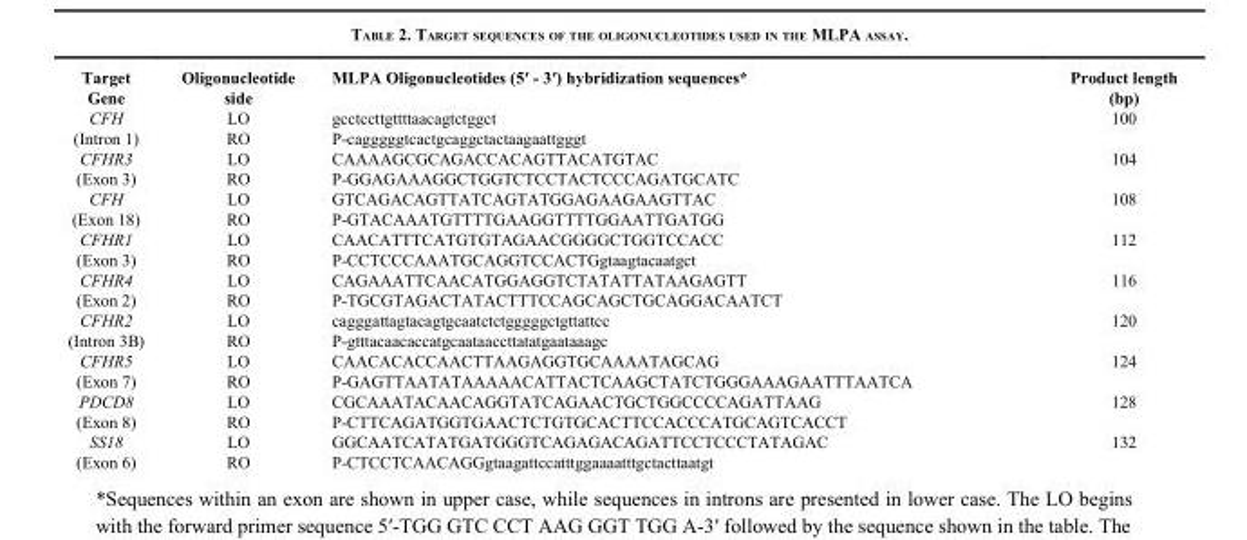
<table><thead><tr><td>Target Gene</td><td>Oligonucleotide side</td><td>MLPA Oligonucleotides (5′ - 3′) hybridization sequences*</td><td>Product length (bp)</td></tr></thead><tbody><tr><td>CFH</td><td>LO</td><td>gcctccttgttttaacagtctggct</td><td>100</td></tr><tr><td>(Intron 1)</td><td>RO</td><td>P-cagggggtcactgcaggctactaagaattgggt</td><td></td></tr><tr><td>CFHR3</td><td>LO</td><td>CAAAAGCGCAGACCACAGTTACATGTAC</td><td>104</td></tr><tr><td>(Exon 3)</td><td>RO</td><td>P-GGAGAAAGGCTGGTCTCCTACTCCCAGATGCATC</td><td></td></tr><tr><td>CFH</td><td>LO</td><td>GTCAGACAGTTATCAGTATGGAGAAGAAGTTAC</td><td>108</td></tr><tr><td>(Exon 18)</td><td>RO</td><td>P-GTACAAATGTTTTGAAGGTTTTGGAATTGATGG</td><td></td></tr><tr><td>CFHR1</td><td>LO</td><td>CAACATTTCATGTGTAGAACGGGGCTGGTCCACC</td><td>112</td></tr><tr><td>(Exon 3)</td><td>RO</td><td>P-CCTCCCAAATGCAGGTCCACTGgtaagtacaatgct</td><td></td></tr><tr><td>CFHR4</td><td>LO</td><td>CAGAAATTCAACATGGAGGTCTATATTATAAGAGTT</td><td>116</td></tr><tr><td>(Exon 2)</td><td>RO</td><td>P-TGCGTAGACTATACTTTCCAGCAGCTGCAGGACAATCT</td><td></td></tr><tr><td>CFHR2</td><td>LO</td><td>cagggattagtacagtgcaatctctgggggctgttattcc</td><td>120</td></tr><tr><td>(Intron 3B)</td><td>RO</td><td>P-gtttacaacaccatgcaataaccttatatgaataaagc</td><td></td></tr><tr><td>CFHR5</td><td>LO</td><td>CAACACACCAACTTAAGAGGTGCAAAATAGCAG</td><td>124</td></tr><tr><td>(Exon 7)</td><td>RO</td><td>P-GAGTTAATATAAAAACATTACTCAAGCTATCTGGGAAAGAATTTAATCA</td><td></td></tr><tr><td>PDCD8</td><td>LO</td><td>CGCAAATACAACAGGTATCAGAACTGCTGGCCCCAGATTAAG</td><td>128</td></tr><tr><td>(Exon 8)</td><td>RO</td><td>P-CTTCAGATGGTGAACTCTGTGCACTTCCACCCATGCAGTCACCT</td><td></td></tr><tr><td>SS18</td><td>LO</td><td>GGCAATCATATGATGGGTCAGAGACAGATTCCTCCCTATAGAC</td><td>132</td></tr><tr><td>(Exon 6)</td><td>RO</td><td>P-CTCCTCAACAGGgtaagattccatttggaaaatttgctacttaatgt</td><td></td></tr></tbody></table>